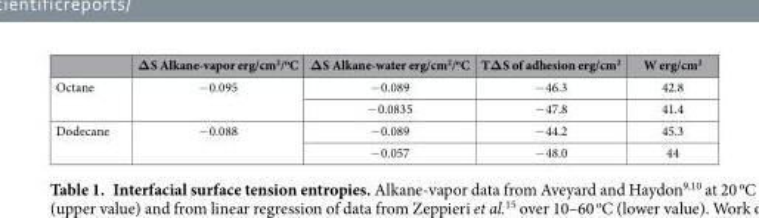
<table><thead><tr><td></td><td>ΔS Alkane-vapor erg/cm<sup>2</sup>/<sup>o</sup>C</td><td>ΔS Alkane-water erg/cm<sup>2</sup>/<sup>o</sup>C</td><td>TΔS of adhesion erg/cm<sup>2</sup></td><td>W erg/cm<sup>2</sup></td></tr></thead><tbody><tr><td rowspan="2">Octane</td><td rowspan="2">− 0.095</td><td>− 0.089</td><td>− 46.3</td><td>42.8</td></tr><tr><td>− 0.0835</td><td>− 47.8</td><td>41.4</td></tr><tr><td rowspan="2">Dodecane</td><td rowspan="2">− 0.088</td><td>− 0.089</td><td>− 44.2</td><td>45.3</td></tr><tr><td>− 0.057</td><td>− 48.0</td><td>44</td></tr></tbody></table>